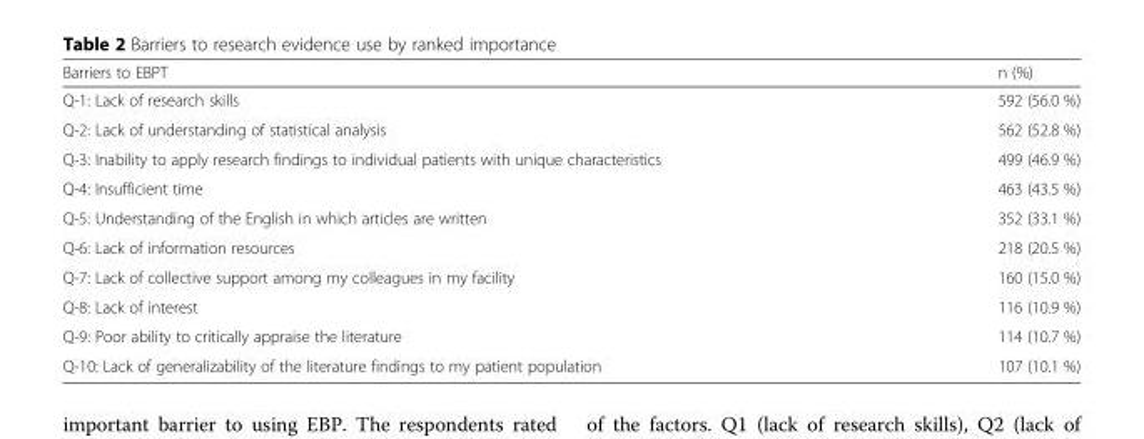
<table><thead><tr><td>Barriers to EBPT</td><td>n (%)</td></tr></thead><tbody><tr><td>Q-1: Lack of research skills</td><td>592 (56.0 %)</td></tr><tr><td>Q-2: Lack of understanding of statistical analysis</td><td>562 (52.8 %)</td></tr><tr><td>Q-3: Inability to apply research findings to individual patients with unique characteristics</td><td>499 (46.9 %)</td></tr><tr><td>Q-4: Insufficient time</td><td>463 (43.5 %)</td></tr><tr><td>Q-5: Understanding of the English in which articles are written</td><td>352 (33.1 %)</td></tr><tr><td>Q-6: Lack of information resources</td><td>218 (20.5 %)</td></tr><tr><td>Q-7: Lack of collective support among my colleagues in my facility</td><td>160 (15.0 %)</td></tr><tr><td>Q-8: Lack of interest</td><td>116 (10.9 %)</td></tr><tr><td>Q-9: Poor ability to critically appraise the literature</td><td>114 (10.7 %)</td></tr><tr><td>Q-10: Lack of generalizability of the literature findings to my patient population</td><td>107 (10.1 %)</td></tr></tbody></table>